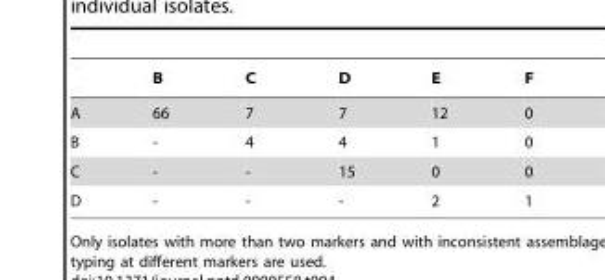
<table><thead><tr><td></td><td>B</td><td>C</td><td>D</td><td>E</td><td>F</td></tr></thead><tbody><tr><td>A</td><td>66</td><td>7</td><td>7</td><td>12</td><td>0</td></tr><tr><td>B</td><td>-</td><td>4</td><td>4</td><td>1</td><td>0</td></tr><tr><td>C</td><td>-</td><td>-</td><td>15</td><td>0</td><td>0</td></tr><tr><td>D</td><td>-</td><td>-</td><td>-</td><td>2</td><td>1</td></tr></tbody></table>